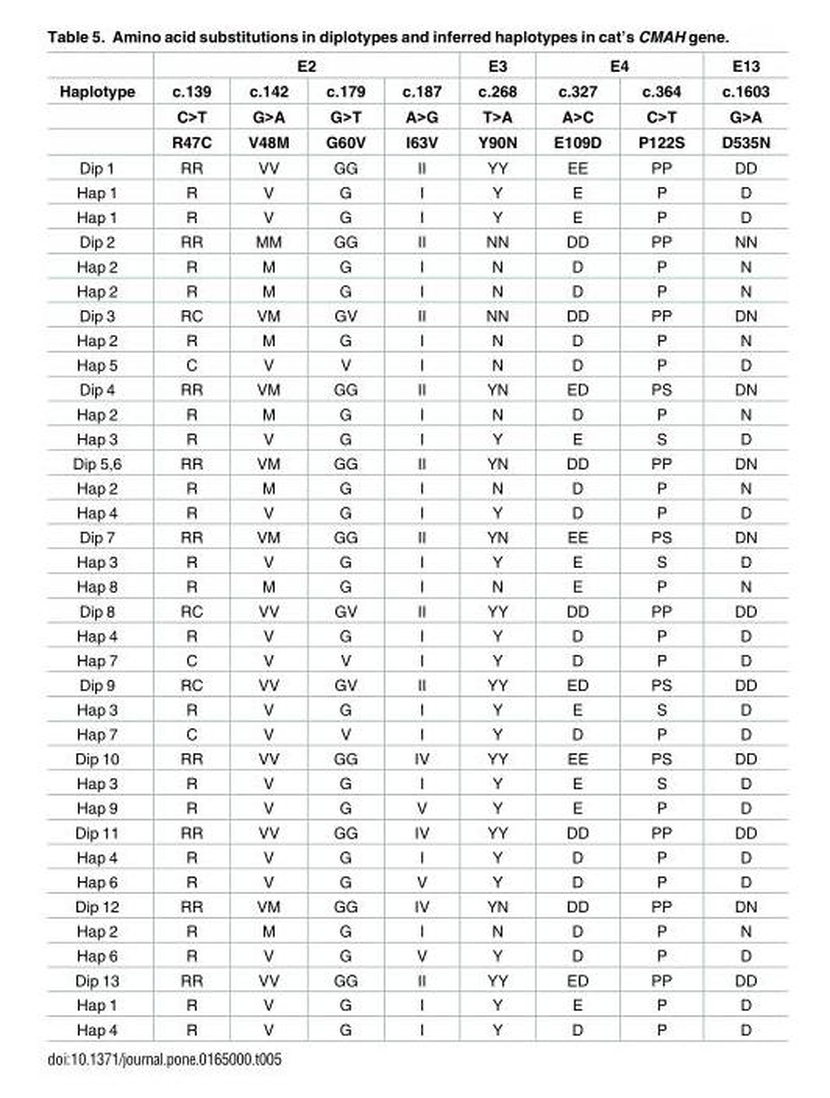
<table><thead><tr><td rowspan="4">Haplotype</td><td colspan="4">E2</td><td rowspan="4">E3 c.268 T&gt;A Y90N</td><td colspan="2">E4</td><td rowspan="4">E13 c.1603 G&gt;A D535N</td></tr><tr><td rowspan="3">c.139 C&gt;T R47C</td><td rowspan="3">c.142 G&gt;A V48M</td><td rowspan="3">c.179 G&gt;T G60V</td><td rowspan="3">c.187 A&gt;G I63V</td><td rowspan="3">c.327 A&gt;C E109D</td><td rowspan="3">c.364 C&gt;T P122S</td></tr><tr></tr><tr></tr></thead><tbody><tr><td>Dip 1</td><td>RR</td><td>VV</td><td>GG</td><td>II</td><td>YY</td><td>EE</td><td>PP</td><td>DD</td></tr><tr><td>Hap 1</td><td>R</td><td>V</td><td>G</td><td>I</td><td>Y</td><td>E</td><td>P</td><td>D</td></tr><tr><td>Hap 1</td><td>R</td><td>V</td><td>G</td><td>I</td><td>Y</td><td>E</td><td>P</td><td>D</td></tr><tr><td>Dip 2</td><td>RR</td><td>MM</td><td>GG</td><td>II</td><td>NN</td><td>DD</td><td>PP</td><td>NN</td></tr><tr><td>Hap 2</td><td>R</td><td>M</td><td>G</td><td>I</td><td>N</td><td>D</td><td>P</td><td>N</td></tr><tr><td>Hap 2</td><td>R</td><td>M</td><td>G</td><td>I</td><td>N</td><td>D</td><td>P</td><td>N</td></tr><tr><td>Dip 3</td><td>RC</td><td>VM</td><td>GV</td><td>II</td><td>NN</td><td>DD</td><td>PP</td><td>DN</td></tr><tr><td>Hap 2</td><td>R</td><td>M</td><td>G</td><td>I</td><td>N</td><td>D</td><td>P</td><td>N</td></tr><tr><td>Hap 5</td><td>C</td><td>V</td><td>V</td><td>I</td><td>N</td><td>D</td><td>P</td><td>D</td></tr><tr><td>Dip 4</td><td>RR</td><td>VM</td><td>GG</td><td>II</td><td>YN</td><td>ED</td><td>PS</td><td>DN</td></tr><tr><td>Hap 2</td><td>R</td><td>M</td><td>G</td><td>I</td><td>N</td><td>D</td><td>P</td><td>N</td></tr><tr><td>Hap 3</td><td>R</td><td>V</td><td>G</td><td>I</td><td>Y</td><td>E</td><td>S</td><td>D</td></tr><tr><td>Dip 5,6</td><td>RR</td><td>VM</td><td>GG</td><td>II</td><td>YN</td><td>DD</td><td>PP</td><td>DN</td></tr><tr><td>Hap 2</td><td>R</td><td>M</td><td>G</td><td>I</td><td>N</td><td>D</td><td>P</td><td>N</td></tr><tr><td>Hap 4</td><td>R</td><td>V</td><td>G</td><td>I</td><td>Y</td><td>D</td><td>P</td><td>D</td></tr><tr><td>Dip 7</td><td>RR</td><td>VM</td><td>GG</td><td>II</td><td>YN</td><td>EE</td><td>PS</td><td>DN</td></tr><tr><td>Hap 3</td><td>R</td><td>V</td><td>G</td><td>I</td><td>Y</td><td>E</td><td>S</td><td>D</td></tr><tr><td>Hap 8</td><td>R</td><td>M</td><td>G</td><td>I</td><td>N</td><td>E</td><td>P</td><td>N</td></tr><tr><td>Dip 8</td><td>RC</td><td>VV</td><td>GV</td><td>II</td><td>YY</td><td>DD</td><td>PP</td><td>DD</td></tr><tr><td>Hap 4</td><td>R</td><td>V</td><td>G</td><td>I</td><td>Y</td><td>D</td><td>P</td><td>D</td></tr><tr><td>Hap 7</td><td>C</td><td>V</td><td>V</td><td>I</td><td>Y</td><td>D</td><td>P</td><td>D</td></tr><tr><td>Dip 9</td><td>RC</td><td>VV</td><td>GV</td><td>II</td><td>YY</td><td>ED</td><td>PS</td><td>DD</td></tr><tr><td>Hap 3</td><td>R</td><td>V</td><td>G</td><td>I</td><td>Y</td><td>E</td><td>S</td><td>D</td></tr><tr><td>Hap 7</td><td>C</td><td>V</td><td>V</td><td>I</td><td>Y</td><td>D</td><td>P</td><td>D</td></tr><tr><td>Dip 10</td><td>RR</td><td>VV</td><td>GG</td><td>IV</td><td>YY</td><td>EE</td><td>PS</td><td>DD</td></tr><tr><td>Hap 3</td><td>R</td><td>V</td><td>G</td><td>I</td><td>Y</td><td>E</td><td>S</td><td>D</td></tr><tr><td>Hap 9</td><td>R</td><td>V</td><td>G</td><td>V</td><td>Y</td><td>E</td><td>P</td><td>D</td></tr><tr><td>Dip 11</td><td>RR</td><td>VV</td><td>GG</td><td>IV</td><td>YY</td><td>DD</td><td>PP</td><td>DD</td></tr><tr><td>Hap 4</td><td>R</td><td>V</td><td>G</td><td>I</td><td>Y</td><td>D</td><td>P</td><td>D</td></tr><tr><td>Hap 6</td><td>R</td><td>V</td><td>G</td><td>V</td><td>Y</td><td>D</td><td>P</td><td>D</td></tr><tr><td>Dip 12</td><td>RR</td><td>VM</td><td>GG</td><td>IV</td><td>YN</td><td>DD</td><td>PP</td><td>DN</td></tr><tr><td>Hap 2</td><td>R</td><td>M</td><td>G</td><td>I</td><td>N</td><td>D</td><td>P</td><td>N</td></tr><tr><td>Hap 6</td><td>R</td><td>V</td><td>G</td><td>V</td><td>Y</td><td>D</td><td>P</td><td>D</td></tr><tr><td>Dip 13</td><td>RR</td><td>VV</td><td>GG</td><td>II</td><td>YY</td><td>ED</td><td>PP</td><td>DD</td></tr><tr><td>Hap 1</td><td>R</td><td>V</td><td>G</td><td>I</td><td>Y</td><td>E</td><td>P</td><td>D</td></tr><tr><td>Hap 4</td><td>R</td><td>V</td><td>G</td><td>I</td><td>Y</td><td>D</td><td>P</td><td>D</td></tr></tbody></table>